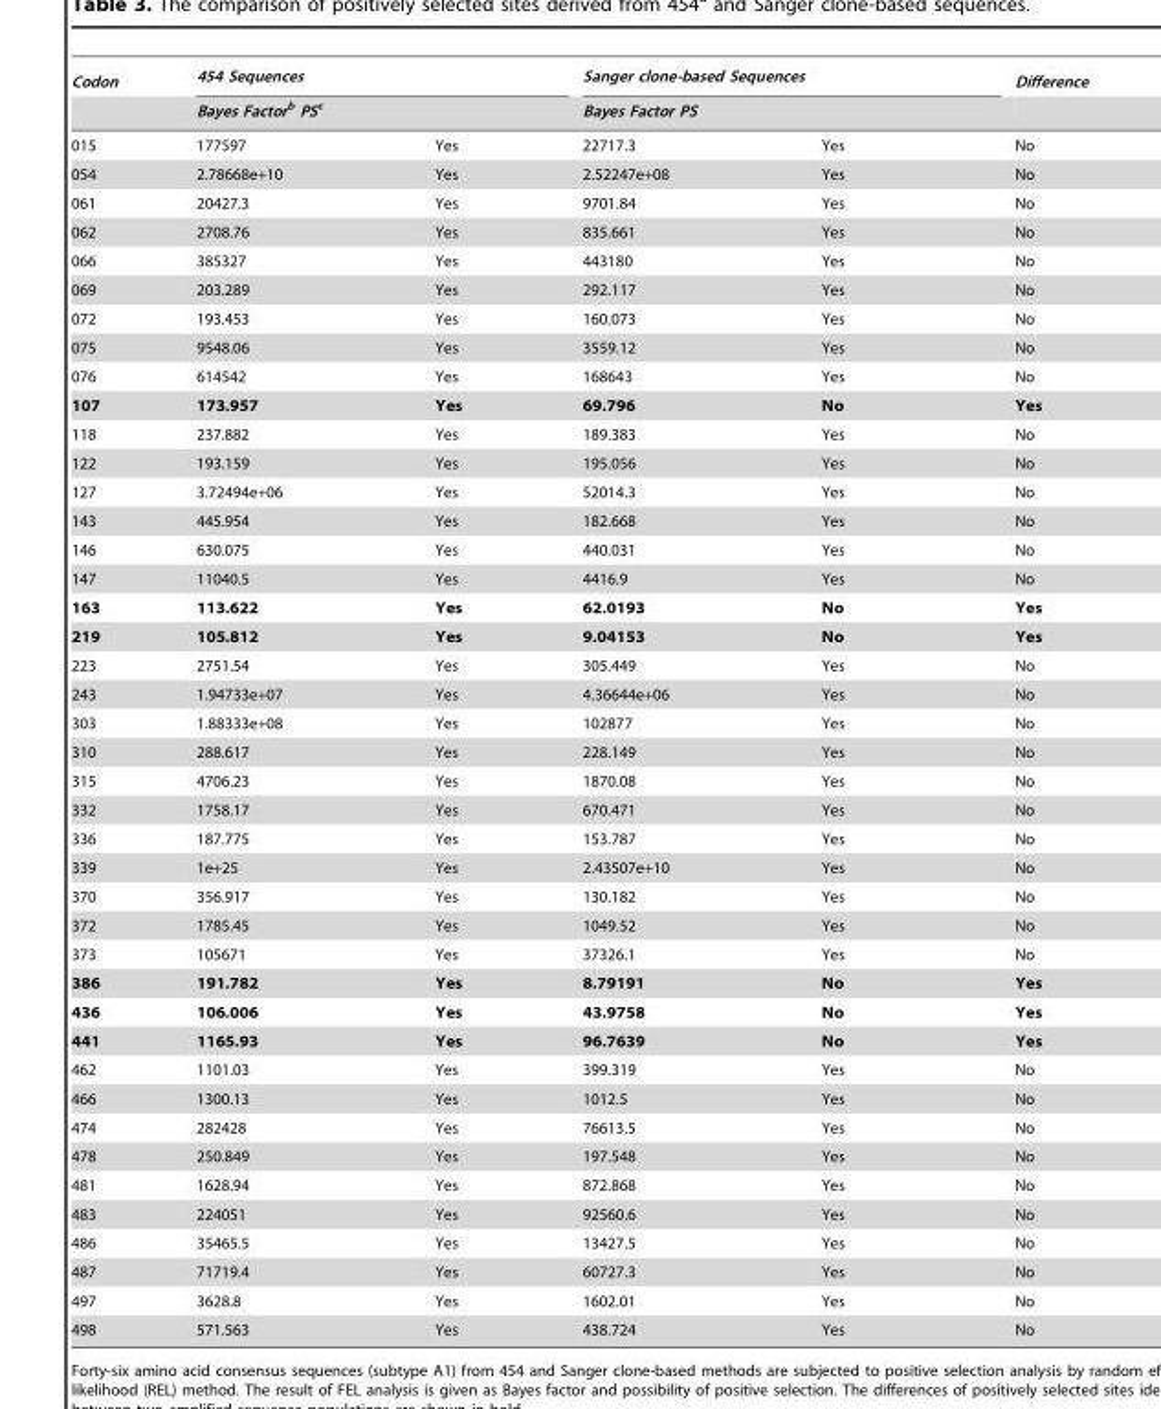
<table><thead><tr><td rowspan="3">Codon 015</td><td rowspan="2" colspan="2">454 Sequences Bayes Factorb PSc</td><td rowspan="2" colspan="2">Sanger clone-based Sequences Bayes Factor PS</td><td rowspan="3">Difference No</td></tr><tr></tr><tr><td>177597</td><td>Yes</td><td>22717.3</td><td>Yes</td></tr></thead><tbody><tr><td>054</td><td>2.78668e+10</td><td>Yes</td><td>2.52247e+08</td><td>Yes</td><td>No</td></tr><tr><td>061</td><td>20427.3</td><td>Yes</td><td>9701.84</td><td>Yes</td><td>No</td></tr><tr><td>062</td><td>2708.76</td><td>Yes</td><td>835.661</td><td>Yes</td><td>No</td></tr><tr><td>066</td><td>385327</td><td>Yes</td><td>443180</td><td>Yes</td><td>No</td></tr><tr><td>069</td><td>203.289</td><td>Yes</td><td>292.117</td><td>Yes</td><td>No</td></tr><tr><td>072</td><td>193.453</td><td>Yes</td><td>160.073</td><td>Yes</td><td>No</td></tr><tr><td>075</td><td>9548.06</td><td>Yes</td><td>3559.12</td><td>Yes</td><td>No</td></tr><tr><td>076</td><td>614542</td><td>Yes</td><td>168643</td><td>Yes</td><td>No</td></tr><tr><td>107</td><td>173.957</td><td>Yes</td><td>69.796</td><td>No</td><td>Yes</td></tr><tr><td>118</td><td>237.882</td><td>Yes</td><td>189.383</td><td>Yes</td><td>No</td></tr><tr><td>122</td><td>193.159</td><td>Yes</td><td>195.056</td><td>Yes</td><td>No</td></tr><tr><td>127</td><td>3.72494e+06</td><td>Yes</td><td>52014.3</td><td>Yes</td><td>No</td></tr><tr><td>143</td><td>445.954</td><td>Yes</td><td>182.668</td><td>Yes</td><td>No</td></tr><tr><td>146</td><td>630.075</td><td>Yes</td><td>440.031</td><td>Yes</td><td>No</td></tr><tr><td>147</td><td>11040.5</td><td>Yes</td><td>4416.9</td><td>Yes</td><td>No</td></tr><tr><td>163</td><td>113.622</td><td>Yes</td><td>62.0193</td><td>No</td><td>Yes</td></tr><tr><td>219</td><td>105.812</td><td>Yes</td><td>9.04153</td><td>No</td><td>Yes</td></tr><tr><td>223</td><td>2751.54</td><td>Yes</td><td>305.449</td><td>Yes</td><td>No</td></tr><tr><td>243</td><td>1.94733e+07</td><td>Yes</td><td>4.36644e+06</td><td>Yes</td><td>No</td></tr><tr><td>303</td><td>1.88333e+08</td><td>Yes</td><td>102877</td><td>Yes</td><td>No</td></tr><tr><td>310</td><td>288.617</td><td>Yes</td><td>228.149</td><td>Yes</td><td>No</td></tr><tr><td>315</td><td>4706.23</td><td>Yes</td><td>1870.08</td><td>Yes</td><td>No</td></tr><tr><td>332</td><td>1758.17</td><td>Yes</td><td>670.471</td><td>Yes</td><td>No</td></tr><tr><td>336</td><td>187.775</td><td>Yes</td><td>153.787</td><td>Yes</td><td>No</td></tr><tr><td>339</td><td>1e+25</td><td>Yes</td><td>2.43507e+10</td><td>Yes</td><td>No</td></tr><tr><td>370</td><td>356.917</td><td>Yes</td><td>130.182</td><td>Yes</td><td>No</td></tr><tr><td>372</td><td>1785.45</td><td>Yes</td><td>1049.52</td><td>Yes</td><td>No</td></tr><tr><td>373</td><td>105671</td><td>Yes</td><td>37326.1</td><td>Yes</td><td>No</td></tr><tr><td>386</td><td>191.782</td><td>Yes</td><td>8.79191</td><td>No</td><td>Yes</td></tr><tr><td>436</td><td>106.006</td><td>Yes</td><td>43.9758</td><td>No</td><td>Yes</td></tr><tr><td>441</td><td>1165.93</td><td>Yes</td><td>96.7639</td><td>No</td><td>Yes</td></tr><tr><td>462</td><td>1101.03</td><td>Yes</td><td>399.319</td><td>Yes</td><td>No</td></tr><tr><td>466</td><td>1300.13</td><td>Yes</td><td>1012.5</td><td>Yes</td><td>No</td></tr><tr><td>474</td><td>282428</td><td>Yes</td><td>76613.5</td><td>Yes</td><td>No</td></tr><tr><td>478</td><td>250.849</td><td>Yes</td><td>197.548</td><td>Yes</td><td>No</td></tr><tr><td>481</td><td>1628.94</td><td>Yes</td><td>872.868</td><td>Yes</td><td>No</td></tr><tr><td>483</td><td>224051</td><td>Yes</td><td>92560.6</td><td>Yes</td><td>No</td></tr><tr><td>486</td><td>35465.5</td><td>Yes</td><td>13427.5</td><td>Yes</td><td>No</td></tr><tr><td>487</td><td>71719.4</td><td>Yes</td><td>60727.3</td><td>Yes</td><td>No</td></tr><tr><td>497</td><td>3628.8</td><td>Yes</td><td>1602.01</td><td>Yes</td><td>No</td></tr><tr><td>498</td><td>571.563</td><td>Yes</td><td>438.724</td><td>Yes</td><td>No</td></tr></tbody></table>